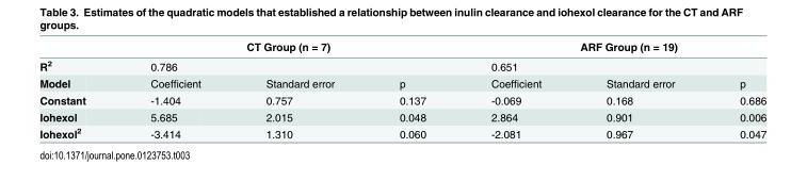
<table><thead><tr><td rowspan="3">R<sup>2</sup> Model</td><td colspan="3">CT Group (n = 7)</td><td colspan="3">ARF Group (n = 19)</td></tr><tr><td colspan="2">0.786</td><td rowspan="2">p</td><td colspan="2">0.651</td><td rowspan="2">p</td></tr><tr><td>Coefficient</td><td>Standard error</td><td>Coefficient</td><td>Standard error</td></tr></thead><tbody><tr><td>Constant</td><td>-1.404</td><td>0.757</td><td>0.137</td><td>-0.069</td><td>0.168</td><td>0.686</td></tr><tr><td>Iohexol</td><td>5.685</td><td>2.015</td><td>0.048</td><td>2.864</td><td>0.901</td><td>0.006</td></tr><tr><td>Iohexol<sup>2</sup></td><td>-3.414</td><td>1.310</td><td>0.060</td><td>-2.081</td><td>0.967</td><td>0.047</td></tr></tbody></table>